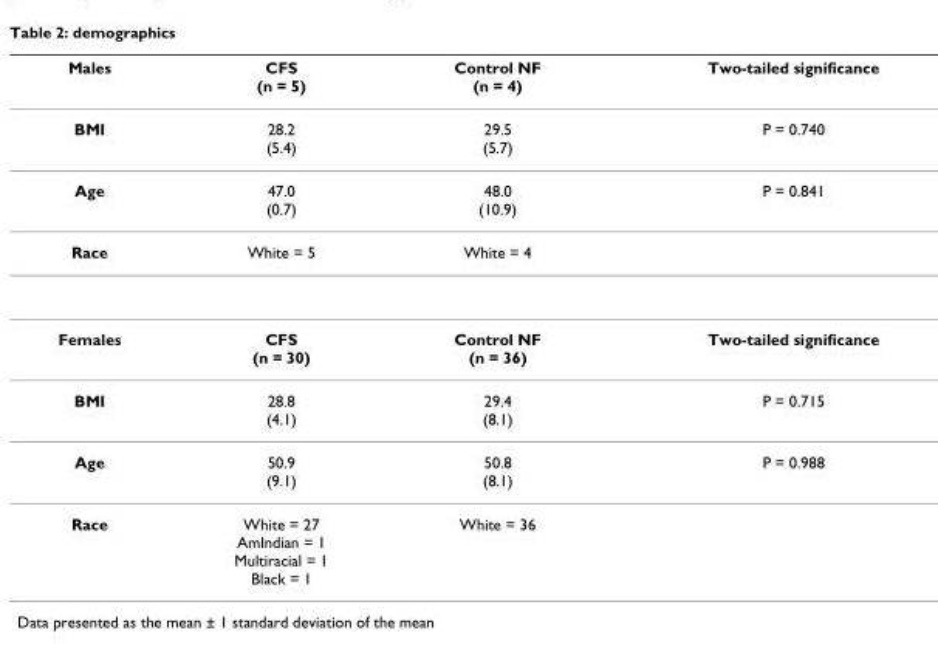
<table><thead><tr><td>Males</td><td>CFS (n = 5)</td><td>Control NF (n = 4)</td><td>Two-tailed significance</td></tr></thead><tbody><tr><td>BMI</td><td>28.2 (5.4)</td><td>29.5 (5.7)</td><td>P = 0.740</td></tr><tr><td>Age</td><td>47.0 (0.7)</td><td>48.0 (10.9)</td><td>P = 0.841</td></tr><tr><td>Race</td><td>White = 5</td><td>White = 4</td><td></td></tr><tr><td>Females</td><td>CFS (n = 30)</td><td>Control NF (n = 36)</td><td>Two-tailed significance</td></tr><tr><td>BMI</td><td>28.8 (4.1)</td><td>29.4 (8.1)</td><td>P = 0.715</td></tr><tr><td>Age</td><td>50.9 (9.1)</td><td>50.8 (8.1)</td><td>P = 0.988</td></tr><tr><td>Race</td><td>White = 27 AmIndian = 1 Multiracial = 1 Black = 1</td><td>White = 36</td><td></td></tr></tbody></table>